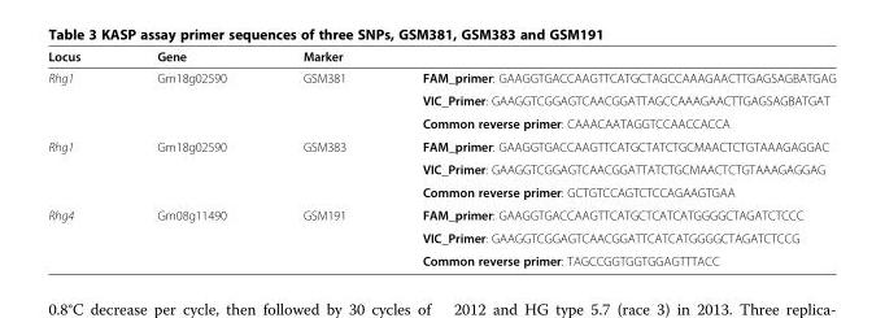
<table><thead><tr><td>Locus</td><td>Gene</td><td>Marker</td><td></td></tr></thead><tbody><tr><td rowspan="3">Rhg1</td><td>Gm18g02590</td><td>GSM381</td><td>FAM_primer: GAAGGTGACCAAGTTCATGCTAGCCAAAGAACTTGAGSAGBATGAG</td></tr><tr><td></td><td></td><td>VIC_Primer: GAAGGTCGGAGTCAACGGATTAGCCAAAGAACTTGAGSAGBATGAT</td></tr><tr><td></td><td></td><td>Common reverse primer: CAAACAATAGGTCCAACCACCA</td></tr><tr><td rowspan="3">Rhg1</td><td>Gm18g02590</td><td>GSM383</td><td>FAM_primer: GAAGGTGACCAAGTTCATGCTATCTGCMAACTCTGTAAAGAGGAC</td></tr><tr><td></td><td></td><td>VIC_Primer: GAAGGTCGGAGTCAACGGATTATCTGCMAACTCTGTAAAGAGGAG</td></tr><tr><td></td><td></td><td>Common reverse primer: GCTGTCCAGTCTCCAGAAGTGAA</td></tr><tr><td rowspan="3">Rhg4</td><td>Gm08g11490</td><td>GSM191</td><td>FAM_primer: GAAGGTGACCAAGTTCATGCTCATCATGGGGCTAGATCTCCC</td></tr><tr><td></td><td></td><td>VIC_Primer: GAAGGTCGGAGTCAACGGATTCATCATGGGGCTAGATCTCCG</td></tr><tr><td></td><td></td><td>Common reverse primer: TAGCCGGTGGTGGAGTTTACC</td></tr></tbody></table>